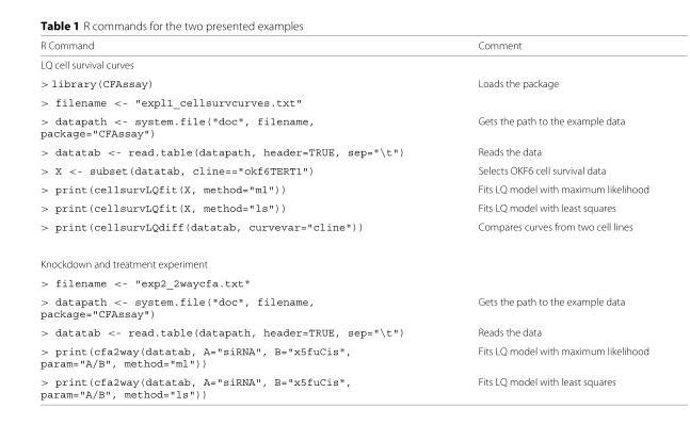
<table><thead><tr><td>R Command</td><td>Comment</td></tr></thead><tbody><tr><td colspan="2">LQ cell survival curves</td></tr><tr><td>&gt; library(CFAssay)</td><td>Loads the package</td></tr><tr><td colspan="2">&gt; filename &lt;- ~expl1_cellsurvcurves.txt~</td></tr><tr><td>&gt; datapath &lt;- system.file(~doc~, filename, package=~CFAssay~)</td><td>Gets the path to the example data</td></tr><tr><td>&gt; datatab &lt;- read.table(datapath, header=TRUE, sep=~\t~)</td><td>Reads the data</td></tr><tr><td>&gt; X &lt;- subset(datatab, cline==~okf6TERT1~)</td><td>Selects OKF6 cell survival data</td></tr><tr><td>&gt; print(cellsurvLQfit(X, method=~ml~))</td><td>Fits LQ model with maximum likelihood</td></tr><tr><td>&gt; print(cellsurvLQfit(X, method=~ls~))</td><td>Fits LQ model with least squares</td></tr><tr><td>&gt; print(cellsurvLQdiff(datatab, curvevar=~cline~))</td><td>Compares curves from two cell lines</td></tr><tr><td colspan="2">Knockdown and treatment experiment</td></tr><tr><td colspan="2">&gt; filename &lt;- ~exp2_2waycfa.txt~</td></tr><tr><td>&gt; datapath &lt;- system.file(~doc~, filename, package=~CFAssay~)</td><td>Gets the path to the example data</td></tr><tr><td>&gt; datatab &lt;- read.table(datapath, header=TRUE, sep=~\t~)</td><td>Reads the data</td></tr><tr><td>&gt; print(cfa2way(datatab, A=~siRNA~, B=~x5fuCis~, param=~A/B~, method=~ml~))</td><td>Fits LQ model with maximum likelihood</td></tr><tr><td>&gt; print(cfa2way(datatab, A=~siRNA~, B=~x5fuCis~, param=~A/B~, method=~ls~))</td><td>Fits LQ model with least squares</td></tr></tbody></table>